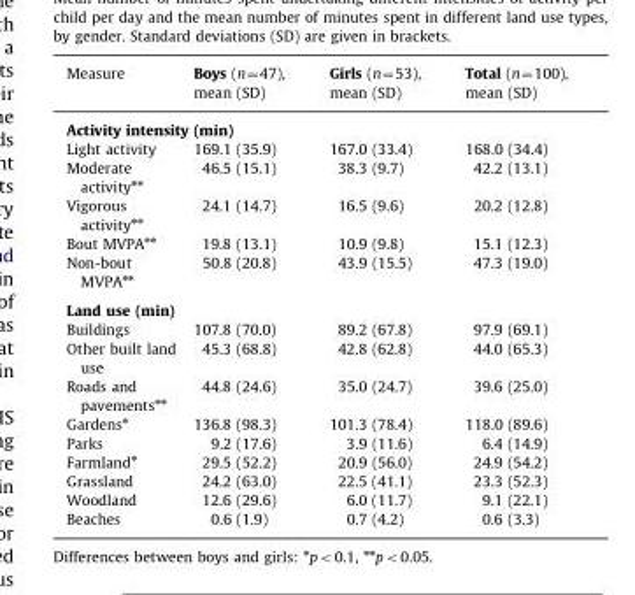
<table><thead><tr><td>Measure</td><td>Boys (n=47), mean (SD)</td><td>Girls (n=53), mean (SD)</td><td>Total (n=100), mean (SD)</td></tr></thead><tbody><tr><td colspan="4">Activity intensity (min)</td></tr><tr><td>Light activity</td><td>169.1 (35.9)</td><td>167.0 (33.4)</td><td>168.0 (34.4)</td></tr><tr><td>Moderate activity<sup>⁎⁎</sup></td><td>46.5 (15.1)</td><td>38.3 (9.7)</td><td>42.2 (13.1)</td></tr><tr><td>Vigorous activity<sup>⁎⁎</sup></td><td>24.1 (14.7)</td><td>16.5 (9.6)</td><td>20.2 (12.8)</td></tr><tr><td>Bout MVPA<sup>⁎⁎</sup></td><td>19.8 (13.1)</td><td>10.9 (9.8)</td><td>15.1 (12.3)</td></tr><tr><td>Non-bout MVPA<sup>⁎⁎</sup></td><td>50.8 (20.8)</td><td>43.9 (15.5)</td><td>47.3 (19.0)</td></tr><tr><td colspan="4">Land use (min)</td></tr><tr><td>Buildings</td><td>107.8 (70.0)</td><td>89.2 (67.8)</td><td>97.9 (69.1)</td></tr><tr><td>Other built land use</td><td>45.3 (68.8)</td><td>42.8 (62.8)</td><td>44.0 (65.3)</td></tr><tr><td>Roads and pavements<sup>⁎⁎</sup></td><td>44.8 (24.6)</td><td>35.0 (24.7)</td><td>39.6 (25.0)</td></tr><tr><td>Gardens<sup>⁎</sup></td><td>136.8 (98.3)</td><td>101.3 (78.4)</td><td>118.0 (89.6)</td></tr><tr><td>Parks</td><td>9.2 (17.6)</td><td>3.9 (11.6)</td><td>6.4 (14.9)</td></tr><tr><td>Farmland<sup>⁎</sup></td><td>29.5 (52.2)</td><td>20.9 (56.0)</td><td>24.9 (54.2)</td></tr><tr><td>Grassland</td><td>24.2 (63.0)</td><td>22.5 (41.1)</td><td>23.3 (52.3)</td></tr><tr><td>Woodland</td><td>12.6 (29.6)</td><td>6.0 (11.7)</td><td>9.1 (22.1)</td></tr><tr><td>Beaches</td><td>0.6 (1.9)</td><td>0.7 (4.2)</td><td>0.6 (3.3)</td></tr></tbody></table>